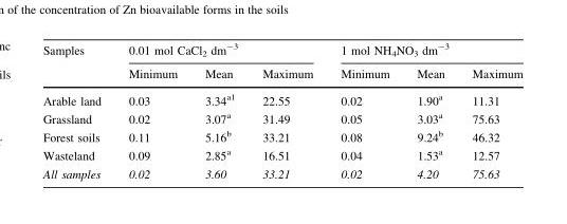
<table><thead><tr><td rowspan="2">Samples</td><td colspan="3">0.01 mol CaCl<sub>2</sub> dm<sup>-3</sup></td><td colspan="3">1 mol NH<sub>4</sub>NO<sub>3</sub> dm<sup>-3</sup></td></tr><tr><td>Minimum</td><td>Mean</td><td>Maximum</td><td>Minimum</td><td>Mean</td><td>Maximum</td></tr></thead><tbody><tr><td>Arable land</td><td>0.03</td><td>3.34<sup>a1</sup></td><td>22.55</td><td>0.02</td><td>1.90<sup>a</sup></td><td>11.31</td></tr><tr><td>Grassland</td><td>0.02</td><td>3.07<sup>a</sup></td><td>31.49</td><td>0.05</td><td>3.03<sup>a</sup></td><td>75.63</td></tr><tr><td>Forest soils</td><td>0.11</td><td>5.16<sup>b</sup></td><td>33.21</td><td>0.08</td><td>9.24<sup>b</sup></td><td>46.32</td></tr><tr><td>Wasteland</td><td>0.09</td><td>2.85<sup>a</sup></td><td>16.51</td><td>0.04</td><td>1.53<sup>a</sup></td><td>12.57</td></tr><tr><td>All samples</td><td>0.02</td><td>3.60</td><td>33.21</td><td>0.02</td><td>4.20</td><td>75.63</td></tr></tbody></table>